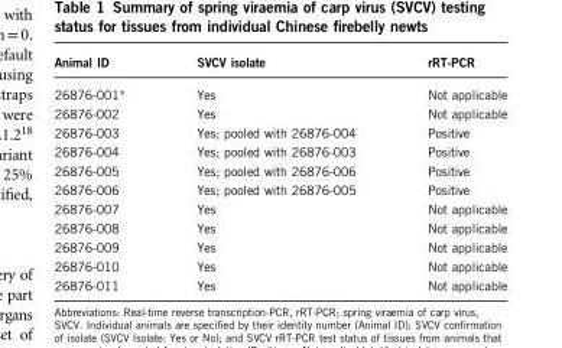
<table><thead><tr><td>Animal ID</td><td>SVCV isolate</td><td>rRT-PCR</td></tr></thead><tbody><tr><td>26876-001*</td><td>Yes</td><td>Not applicable</td></tr><tr><td>26876-002</td><td>Yes</td><td>Not applicable</td></tr><tr><td>26876-003</td><td>Yes; pooled with 26876-004</td><td>Positive</td></tr><tr><td>26876-004</td><td>Yes; pooled with 26876-003</td><td>Positive</td></tr><tr><td>26876-005</td><td>Yes; pooled with 26876-006</td><td>Positive</td></tr><tr><td>26876-006</td><td>Yes; pooled with 26876-005</td><td>Positive</td></tr><tr><td>26876-007</td><td>Yes</td><td>Not applicable</td></tr><tr><td>26876-008</td><td>Yes</td><td>Not applicable</td></tr><tr><td>26876-009</td><td>Yes</td><td>Not applicable</td></tr><tr><td>26876-010</td><td>Yes</td><td>Not applicable</td></tr><tr><td>26876-011</td><td>Yes</td><td>Not applicable</td></tr></tbody></table>